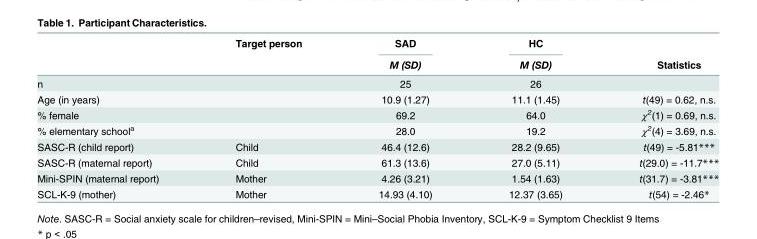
<table><thead><tr><td rowspan="2"></td><td rowspan="2">Target person</td><td rowspan="2">SAD M (SD)</td><td rowspan="2">HC M (SD)</td><td rowspan="2">Statistics</td></tr><tr></tr></thead><tbody><tr><td>n</td><td></td><td>25</td><td>26</td><td></td></tr><tr><td>Age (in years)</td><td></td><td>10.9 (1.27)</td><td>11.1 (1.45)</td><td>t(49) = 0.62, n.s.</td></tr><tr><td>% female</td><td></td><td>69.2</td><td>64.0</td><td>χ<sup>2</sup>(1) = 0.69, n.s.</td></tr><tr><td>% elementary school<sup>a</sup></td><td></td><td>28.0</td><td>19.2</td><td>χ<sup>2</sup>(4) = 3.69, n.s.</td></tr><tr><td>SASC-R (child report)</td><td>Child</td><td>46.4 (12.6)</td><td>28.2 (9.65)</td><td>t(49) = -5.81***</td></tr><tr><td>SASC-R (maternal report)</td><td>Child</td><td>61.3 (13.6)</td><td>27.0 (5.11)</td><td>t(29.0) = -11.7***</td></tr><tr><td>Mini-SPIN (maternal report)</td><td>Mother</td><td>4.26 (3.21)</td><td>1.54 (1.63)</td><td>t(31.7) = -3.81***</td></tr><tr><td>SCL-K-9 (mother)</td><td>Mother</td><td>14.93 (4.10)</td><td>12.37 (3.65)</td><td>t(54) = -2.46*</td></tr></tbody></table>